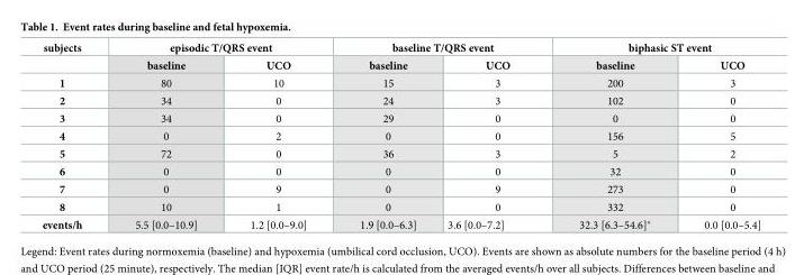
<table><thead><tr><td rowspan="2">subjects</td><td colspan="2">episodic T/QRS event</td><td colspan="2">baseline T/QRS event</td><td colspan="2">biphasic ST event</td></tr><tr><td>baseline</td><td>UCO</td><td>baseline</td><td>UCO</td><td>baseline</td><td>UCO</td></tr></thead><tbody><tr><td>1</td><td>80</td><td>10</td><td>15</td><td>3</td><td>200</td><td>3</td></tr><tr><td>2</td><td>34</td><td>0</td><td>24</td><td>3</td><td>102</td><td>0</td></tr><tr><td>3</td><td>34</td><td>0</td><td>29</td><td>0</td><td>0</td><td>0</td></tr><tr><td>4</td><td>0</td><td>2</td><td>0</td><td>0</td><td>156</td><td>5</td></tr><tr><td>5</td><td>72</td><td>0</td><td>36</td><td>3</td><td>5</td><td>2</td></tr><tr><td>6</td><td>0</td><td>0</td><td>0</td><td>0</td><td>32</td><td>0</td></tr><tr><td>7</td><td>0</td><td>9</td><td>0</td><td>9</td><td>273</td><td>0</td></tr><tr><td>8</td><td>10</td><td>1</td><td>0</td><td>0</td><td>332</td><td>0</td></tr><tr><td>events/h</td><td>5.5 [0.0–10.9]</td><td>1.2 [0.0–9.0]</td><td>1.9 [0.0–6.3]</td><td>3.6 [0.0–7.2]</td><td>32.3 [6.3–54.6]*</td><td>0.0 [0.0–5.4]</td></tr></tbody></table>